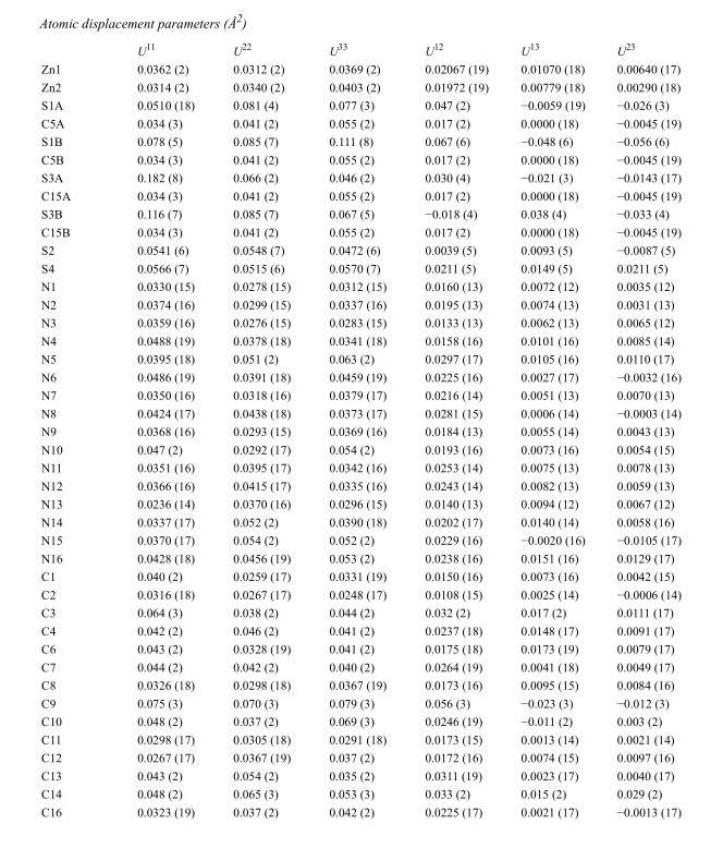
<table><thead><tr><td></td><td>U<sup>11</sup></td><td>U<sup>22</sup></td><td>U<sup>33</sup></td><td>U<sup>12</sup></td><td>U<sup>13</sup></td><td>U<sup>23</sup></td></tr></thead><tbody><tr><td>Zn1</td><td>0.0362 (2)</td><td>0.0312 (2)</td><td>0.0369 (2)</td><td>0.02067 (19)</td><td>0.01070 (18)</td><td>0.00640 (17)</td></tr><tr><td>Zn2</td><td>0.0314 (2)</td><td>0.0340 (2)</td><td>0.0403 (2)</td><td>0.01972 (19)</td><td>0.00779 (18)</td><td>0.00290 (18)</td></tr><tr><td>S1A</td><td>0.0510 (18)</td><td>0.081 (4)</td><td>0.077 (3)</td><td>0.047 (2)</td><td>−0.0059 (19)</td><td>−0.026 (3)</td></tr><tr><td>C5A</td><td>0.034 (3)</td><td>0.041 (2)</td><td>0.055 (2)</td><td>0.017 (2)</td><td>0.0000 (18)</td><td>−0.0045 (19)</td></tr><tr><td>S1B</td><td>0.078 (5)</td><td>0.085 (7)</td><td>0.111 (8)</td><td>0.067 (6)</td><td>−0.048 (6)</td><td>−0.056 (6)</td></tr><tr><td>C5B</td><td>0.034 (3)</td><td>0.041 (2)</td><td>0.055 (2)</td><td>0.017 (2)</td><td>0.0000 (18)</td><td>−0.0045 (19)</td></tr><tr><td>S3A</td><td>0.182 (8)</td><td>0.066 (2)</td><td>0.046 (2)</td><td>0.030 (4)</td><td>−0.021 (3)</td><td>−0.0143 (17)</td></tr><tr><td>C15A</td><td>0.034 (3)</td><td>0.041 (2)</td><td>0.055 (2)</td><td>0.017 (2)</td><td>0.0000 (18)</td><td>−0.0045 (19)</td></tr><tr><td>S3B</td><td>0.116 (7)</td><td>0.085 (7)</td><td>0.067 (5)</td><td>−0.018 (4)</td><td>0.038 (4)</td><td>−0.033 (4)</td></tr><tr><td>C15B</td><td>0.034 (3)</td><td>0.041 (2)</td><td>0.055 (2)</td><td>0.017 (2)</td><td>0.0000 (18)</td><td>−0.0045 (19)</td></tr><tr><td>S2</td><td>0.0541 (6)</td><td>0.0548 (7)</td><td>0.0472 (6)</td><td>0.0039 (5)</td><td>0.0093 (5)</td><td>−0.0087 (5)</td></tr><tr><td>S4</td><td>0.0566 (7)</td><td>0.0515 (6)</td><td>0.0570 (7)</td><td>0.0211 (5)</td><td>0.0149 (5)</td><td>0.0211 (5)</td></tr><tr><td>N1</td><td>0.0330 (15)</td><td>0.0278 (15)</td><td>0.0312 (15)</td><td>0.0160 (13)</td><td>0.0072 (12)</td><td>0.0035 (12)</td></tr><tr><td>N2</td><td>0.0374 (16)</td><td>0.0299 (15)</td><td>0.0337 (16)</td><td>0.0195 (13)</td><td>0.0074 (13)</td><td>0.0031 (13)</td></tr><tr><td>N3</td><td>0.0359 (16)</td><td>0.0276 (15)</td><td>0.0283 (15)</td><td>0.0133 (13)</td><td>0.0062 (13)</td><td>0.0065 (12)</td></tr><tr><td>N4</td><td>0.0488 (19)</td><td>0.0378 (18)</td><td>0.0341 (18)</td><td>0.0158 (16)</td><td>0.0101 (16)</td><td>0.0085 (14)</td></tr><tr><td>N5</td><td>0.0395 (18)</td><td>0.051 (2)</td><td>0.063 (2)</td><td>0.0297 (17)</td><td>0.0105 (16)</td><td>0.0110 (17)</td></tr><tr><td>N6</td><td>0.0486 (19)</td><td>0.0391 (18)</td><td>0.0459 (19)</td><td>0.0225 (16)</td><td>0.0027 (17)</td><td>−0.0032 (16)</td></tr><tr><td>N7</td><td>0.0350 (16)</td><td>0.0318 (16)</td><td>0.0379 (17)</td><td>0.0216 (14)</td><td>0.0051 (13)</td><td>0.0070 (13)</td></tr><tr><td>N8</td><td>0.0424 (17)</td><td>0.0438 (18)</td><td>0.0373 (17)</td><td>0.0281 (15)</td><td>0.0006 (14)</td><td>−0.0003 (14)</td></tr><tr><td>N9</td><td>0.0368 (16)</td><td>0.0293 (15)</td><td>0.0369 (16)</td><td>0.0184 (13)</td><td>0.0055 (14)</td><td>0.0043 (13)</td></tr><tr><td>N10</td><td>0.047 (2)</td><td>0.0292 (17)</td><td>0.054 (2)</td><td>0.0193 (16)</td><td>0.0073 (16)</td><td>0.0054 (15)</td></tr><tr><td>N11</td><td>0.0351 (16)</td><td>0.0395 (17)</td><td>0.0342 (16)</td><td>0.0253 (14)</td><td>0.0075 (13)</td><td>0.0078 (13)</td></tr><tr><td>N12</td><td>0.0366 (16)</td><td>0.0415 (17)</td><td>0.0335 (16)</td><td>0.0243 (14)</td><td>0.0082 (13)</td><td>0.0059 (13)</td></tr><tr><td>N13</td><td>0.0236 (14)</td><td>0.0370 (16)</td><td>0.0296 (15)</td><td>0.0140 (13)</td><td>0.0094 (12)</td><td>0.0067 (12)</td></tr><tr><td>N14</td><td>0.0337 (17)</td><td>0.052 (2)</td><td>0.0390 (18)</td><td>0.0202 (17)</td><td>0.0140 (14)</td><td>0.0058 (16)</td></tr><tr><td>N15</td><td>0.0370 (17)</td><td>0.054 (2)</td><td>0.052 (2)</td><td>0.0229 (16)</td><td>−0.0020 (16)</td><td>−0.0105 (17)</td></tr><tr><td>N16</td><td>0.0428 (18)</td><td>0.0456 (19)</td><td>0.053 (2)</td><td>0.0238 (16)</td><td>0.0151 (16)</td><td>0.0129 (17)</td></tr><tr><td>C1</td><td>0.040 (2)</td><td>0.0259 (17)</td><td>0.0331 (19)</td><td>0.0150 (16)</td><td>0.0073 (16)</td><td>0.0042 (15)</td></tr><tr><td>C2</td><td>0.0316 (18)</td><td>0.0267 (17)</td><td>0.0248 (17)</td><td>0.0108 (15)</td><td>0.0025 (14)</td><td>−0.0006 (14)</td></tr><tr><td>C3</td><td>0.064 (3)</td><td>0.038 (2)</td><td>0.044 (2)</td><td>0.032 (2)</td><td>0.017 (2)</td><td>0.0111 (17)</td></tr><tr><td>C4</td><td>0.042 (2)</td><td>0.046 (2)</td><td>0.041 (2)</td><td>0.0237 (18)</td><td>0.0148 (17)</td><td>0.0091 (17)</td></tr><tr><td>C6</td><td>0.043 (2)</td><td>0.0328 (19)</td><td>0.041 (2)</td><td>0.0175 (18)</td><td>0.0173 (19)</td><td>0.0079 (17)</td></tr><tr><td>C7</td><td>0.044 (2)</td><td>0.042 (2)</td><td>0.040 (2)</td><td>0.0264 (19)</td><td>0.0041 (18)</td><td>0.0049 (17)</td></tr><tr><td>C8</td><td>0.0326 (18)</td><td>0.0298 (18)</td><td>0.0367 (19)</td><td>0.0173 (16)</td><td>0.0095 (15)</td><td>0.0084 (16)</td></tr><tr><td>C9</td><td>0.075 (3)</td><td>0.070 (3)</td><td>0.079 (3)</td><td>0.056 (3)</td><td>−0.023 (3)</td><td>−0.012 (3)</td></tr><tr><td>C10</td><td>0.048 (2)</td><td>0.037 (2)</td><td>0.069 (3)</td><td>0.0246 (19)</td><td>−0.011 (2)</td><td>0.003 (2)</td></tr><tr><td>C11</td><td>0.0298 (17)</td><td>0.0305 (18)</td><td>0.0291 (18)</td><td>0.0173 (15)</td><td>0.0013 (14)</td><td>0.0021 (14)</td></tr><tr><td>C12</td><td>0.0267 (17)</td><td>0.0367 (19)</td><td>0.037 (2)</td><td>0.0172 (16)</td><td>0.0074 (15)</td><td>0.0097 (16)</td></tr><tr><td>C13</td><td>0.043 (2)</td><td>0.054 (2)</td><td>0.035 (2)</td><td>0.0311 (19)</td><td>0.0023 (17)</td><td>0.0040 (17)</td></tr><tr><td>C14</td><td>0.048 (2)</td><td>0.065 (3)</td><td>0.053 (3)</td><td>0.033 (2)</td><td>0.015 (2)</td><td>0.029 (2)</td></tr><tr><td>C16</td><td>0.0323 (19)</td><td>0.037 (2)</td><td>0.042 (2)</td><td>0.0225 (17)</td><td>0.0021 (17)</td><td>−0.0013 (17)</td></tr></tbody></table>